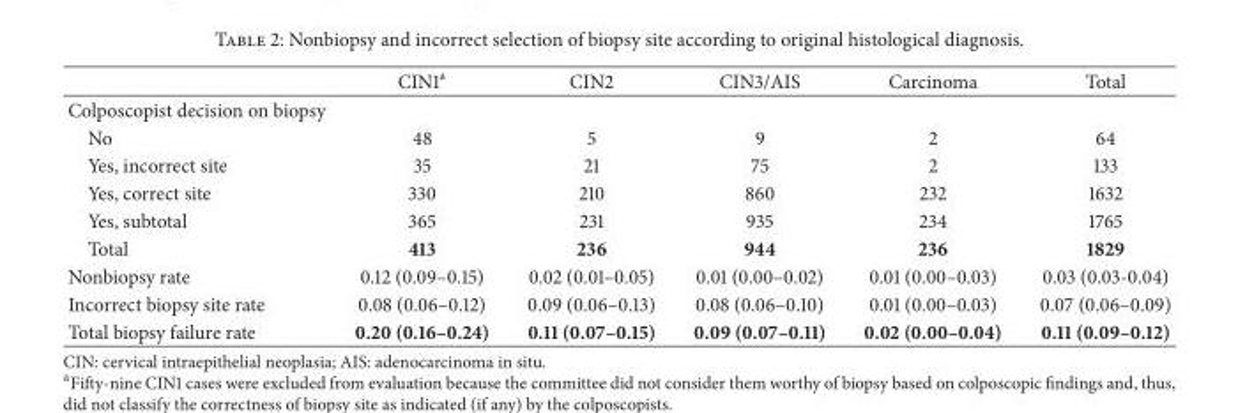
<table><thead><tr><td></td><td>CIN1<sup>a</sup></td><td>CIN2</td><td>CIN3/AIS</td><td>Carcinoma</td><td>Total</td></tr></thead><tbody><tr><td colspan="6">Colposcopist decision on biopsy</td></tr><tr><td>No</td><td>48</td><td>5</td><td>9</td><td>2</td><td>64</td></tr><tr><td>Yes, incorrect site</td><td>35</td><td>21</td><td>75</td><td>2</td><td>133</td></tr><tr><td>Yes, correct site</td><td>330</td><td>210</td><td>860</td><td>232</td><td>1632</td></tr><tr><td>Yes, subtotal</td><td>365</td><td>231</td><td>935</td><td>234</td><td>1765</td></tr><tr><td>Total</td><td>413</td><td>236</td><td>944</td><td>236</td><td>1829</td></tr><tr><td>Nonbiopsy rate</td><td>0.12 (0.09–0.15)</td><td>0.02 (0.01–0.05)</td><td>0.01 (0.00–0.02)</td><td>0.01 (0.00–0.03)</td><td>0.03 (0.03-0.04)</td></tr><tr><td>Incorrect biopsy site rate</td><td>0.08 (0.06–0.12)</td><td>0.09 (0.06–0.13)</td><td>0.08 (0.06–0.10)</td><td>0.01 (0.00–0.03)</td><td>0.07 (0.06–0.09)</td></tr><tr><td>Total biopsy failure rate</td><td>0.20 (0.16–0.24)</td><td>0.11 (0.07–0.15)</td><td>0.09 (0.07–0.11)</td><td>0.02 (0.00–0.04)</td><td>0.11 (0.09–0.12)</td></tr></tbody></table>